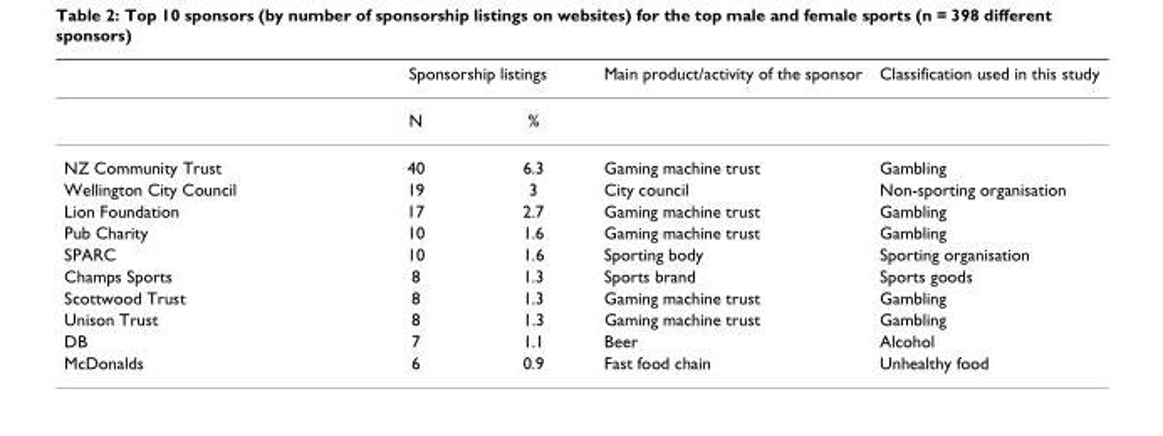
<table><thead><tr><td rowspan="2"></td><td colspan="2">Sponsorship listings</td><td rowspan="2">Main product/activity of the sponsor</td><td rowspan="2">Classification used in this study</td></tr><tr><td>N</td><td>%</td></tr></thead><tbody><tr><td>NZ Community Trust</td><td>40</td><td>6.3</td><td>Gaming machine trust</td><td>Gambling</td></tr><tr><td>Wellington City Council</td><td>19</td><td>3</td><td>City council</td><td>Non-sporting organisation</td></tr><tr><td>Lion Foundation</td><td>17</td><td>2.7</td><td>Gaming machine trust</td><td>Gambling</td></tr><tr><td>Pub Charity</td><td>10</td><td>1.6</td><td>Gaming machine trust</td><td>Gambling</td></tr><tr><td>SPARC</td><td>10</td><td>1.6</td><td>Sporting body</td><td>Sporting organisation</td></tr><tr><td>Champs Sports</td><td>8</td><td>1.3</td><td>Sports brand</td><td>Sports goods</td></tr><tr><td>Scottwood Trust</td><td>8</td><td>1.3</td><td>Gaming machine trust</td><td>Gambling</td></tr><tr><td>Unison Trust</td><td>8</td><td>1.3</td><td>Gaming machine trust</td><td>Gambling</td></tr><tr><td>DB</td><td>7</td><td>1.1</td><td>Beer</td><td>Alcohol</td></tr><tr><td>McDonalds</td><td>6</td><td>0.9</td><td>Fast food chain</td><td>Unhealthy food</td></tr></tbody></table>